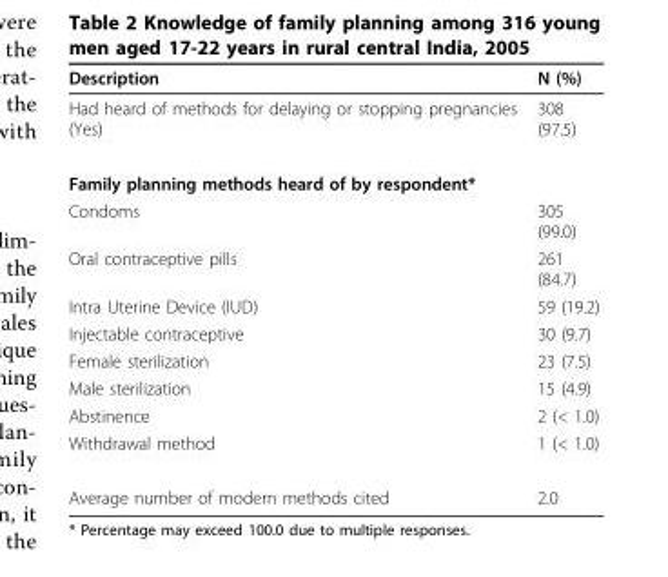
<table><thead><tr><td>Description</td><td>N (%)</td></tr></thead><tbody><tr><td>Had heard of methods for delaying or stopping pregnancies (Yes)</td><td>308 (97.5)</td></tr><tr><td colspan="2">Family planning methods heard of by respondent*</td></tr><tr><td>Condoms</td><td>305 (99.0)</td></tr><tr><td>Oral contraceptive pills</td><td>261 (84.7)</td></tr><tr><td>Intra Uterine Device (IUD)</td><td>59 (19.2)</td></tr><tr><td>Injectable contraceptive</td><td>30 (9.7)</td></tr><tr><td>Female sterilization</td><td>23 (7.5)</td></tr><tr><td>Male sterilization</td><td>15 (4.9)</td></tr><tr><td>Abstinence</td><td>2 (&lt; 1.0)</td></tr><tr><td>Withdrawal method</td><td>1 (&lt; 1.0)</td></tr><tr><td>Average number of modern methods cited</td><td>2.0</td></tr></tbody></table>